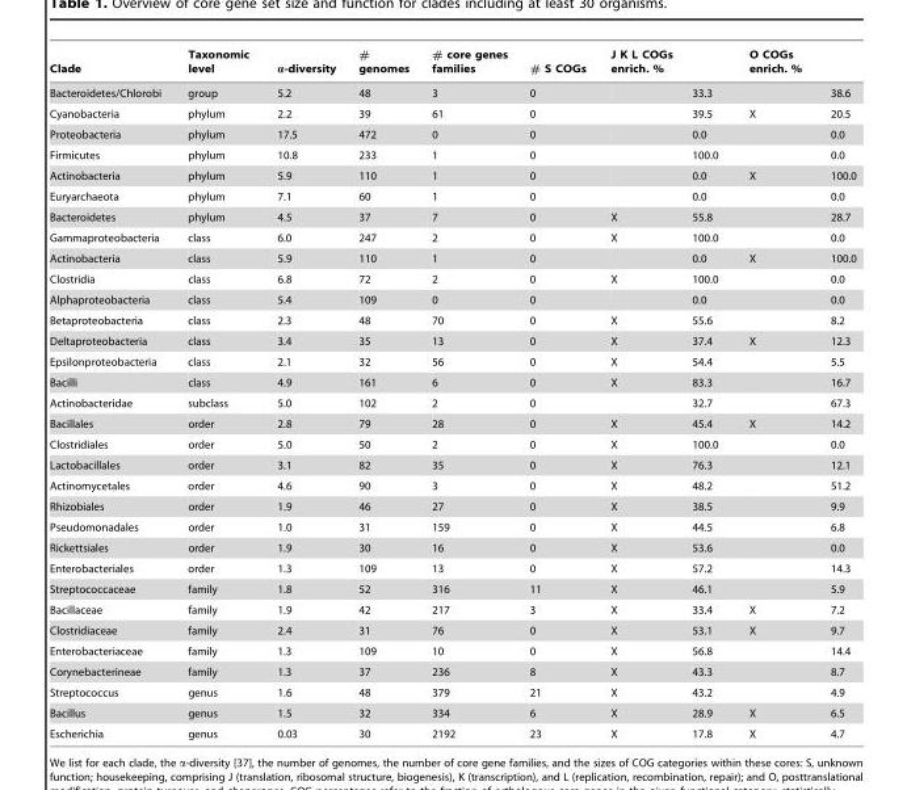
<table><thead><tr><td rowspan="2">Clade Bacteroidetes/Chlorobi</td><td rowspan="2">Taxonomic level group</td><td rowspan="2">α-diversity 5.2</td><td rowspan="2"># genomes 48</td><td rowspan="2"># core genes families 3</td><td rowspan="2"># S COGs 0</td><td colspan="2">J K L COGs enrich. %</td><td colspan="2">O COGs enrich. %</td></tr><tr><td></td><td>33.3</td><td></td><td>38.6</td></tr></thead><tbody><tr><td>Cyanobacteria</td><td>phylum</td><td>2.2</td><td>39</td><td>61</td><td>0</td><td></td><td>39.5</td><td>X</td><td>20.5</td></tr><tr><td>Proteobacteria</td><td>phylum</td><td>17.5</td><td>472</td><td>0</td><td>0</td><td></td><td>0.0</td><td></td><td>0.0</td></tr><tr><td>Firmicutes</td><td>phylum</td><td>10.8</td><td>233</td><td>1</td><td>0</td><td></td><td>100.0</td><td></td><td>0.0</td></tr><tr><td>Actinobacteria</td><td>phylum</td><td>5.9</td><td>110</td><td>1</td><td>0</td><td></td><td>0.0</td><td>X</td><td>100.0</td></tr><tr><td>Euryarchaeota</td><td>phylum</td><td>7.1</td><td>60</td><td>1</td><td>0</td><td></td><td>0.0</td><td></td><td>0.0</td></tr><tr><td>Bacteroidetes</td><td>phylum</td><td>4.5</td><td>37</td><td>7</td><td>0</td><td>X</td><td>55.8</td><td></td><td>28.7</td></tr><tr><td>Gammaproteobacteria</td><td>class</td><td>6.0</td><td>247</td><td>2</td><td>0</td><td>X</td><td>100.0</td><td></td><td>0.0</td></tr><tr><td>Actinobacteria</td><td>class</td><td>5.9</td><td>110</td><td>1</td><td>0</td><td></td><td>0.0</td><td>X</td><td>100.0</td></tr><tr><td>Clostridia</td><td>class</td><td>6.8</td><td>72</td><td>2</td><td>0</td><td>X</td><td>100.0</td><td></td><td>0.0</td></tr><tr><td>Alphaproteobacteria</td><td>class</td><td>5.4</td><td>109</td><td>0</td><td>0</td><td></td><td>0.0</td><td></td><td>0.0</td></tr><tr><td>Betaproteobacteria</td><td>class</td><td>2.3</td><td>48</td><td>70</td><td>0</td><td>X</td><td>55.6</td><td></td><td>8.2</td></tr><tr><td>Deltaproteobacteria</td><td>class</td><td>3.4</td><td>35</td><td>13</td><td>0</td><td>X</td><td>37.4</td><td>X</td><td>12.3</td></tr><tr><td>Epsilonproteobacteria</td><td>class</td><td>2.1</td><td>32</td><td>56</td><td>0</td><td>X</td><td>54.4</td><td></td><td>5.5</td></tr><tr><td>Bacilli</td><td>class</td><td>4.9</td><td>161</td><td>6</td><td>0</td><td>X</td><td>83.3</td><td></td><td>16.7</td></tr><tr><td>Actinobacteridae</td><td>subclass</td><td>5.0</td><td>102</td><td>2</td><td>0</td><td></td><td>32.7</td><td></td><td>67.3</td></tr><tr><td>Bacillales</td><td>order</td><td>2.8</td><td>79</td><td>28</td><td>0</td><td>X</td><td>45.4</td><td>X</td><td>14.2</td></tr><tr><td>Clostridiales</td><td>order</td><td>5.0</td><td>50</td><td>2</td><td>0</td><td>X</td><td>100.0</td><td></td><td>0.0</td></tr><tr><td>Lactobacillales</td><td>order</td><td>3.1</td><td>82</td><td>35</td><td>0</td><td>X</td><td>76.3</td><td></td><td>12.1</td></tr><tr><td>Actinomycetales</td><td>order</td><td>4.6</td><td>90</td><td>3</td><td>0</td><td>X</td><td>48.2</td><td></td><td>51.2</td></tr><tr><td>Rhizobiales</td><td>order</td><td>1.9</td><td>46</td><td>27</td><td>0</td><td>X</td><td>38.5</td><td></td><td>9.9</td></tr><tr><td>Pseudomonadales</td><td>order</td><td>1.0</td><td>31</td><td>159</td><td>0</td><td>X</td><td>44.5</td><td></td><td>6.8</td></tr><tr><td>Rickettsiales</td><td>order</td><td>1.9</td><td>30</td><td>16</td><td>0</td><td>X</td><td>53.6</td><td></td><td>0.0</td></tr><tr><td>Enterobacteriales</td><td>order</td><td>1.3</td><td>109</td><td>13</td><td>0</td><td>X</td><td>57.2</td><td></td><td>14.3</td></tr><tr><td>Streptococcaceae</td><td>family</td><td>1.8</td><td>52</td><td>316</td><td>11</td><td>X</td><td>46.1</td><td></td><td>5.9</td></tr><tr><td>Bacillaceae</td><td>family</td><td>1.9</td><td>42</td><td>217</td><td>3</td><td>X</td><td>33.4</td><td>X</td><td>7.2</td></tr><tr><td>Clostridiaceae</td><td>family</td><td>2.4</td><td>31</td><td>76</td><td>0</td><td>X</td><td>53.1</td><td>X</td><td>9.7</td></tr><tr><td>Enterobacteriaceae</td><td>family</td><td>1.3</td><td>109</td><td>10</td><td>0</td><td>X</td><td>56.8</td><td></td><td>14.4</td></tr><tr><td>Corynebacterineae</td><td>family</td><td>1.3</td><td>37</td><td>236</td><td>8</td><td>X</td><td>43.3</td><td></td><td>8.7</td></tr><tr><td>Streptococcus</td><td>genus</td><td>1.6</td><td>48</td><td>379</td><td>21</td><td>X</td><td>43.2</td><td></td><td>4.9</td></tr><tr><td>Bacillus</td><td>genus</td><td>1.5</td><td>32</td><td>334</td><td>6</td><td>X</td><td>28.9</td><td>X</td><td>6.5</td></tr><tr><td>Escherichia</td><td>genus</td><td>0.03</td><td>30</td><td>2192</td><td>23</td><td>X</td><td>17.8</td><td>X</td><td>4.7</td></tr></tbody></table>